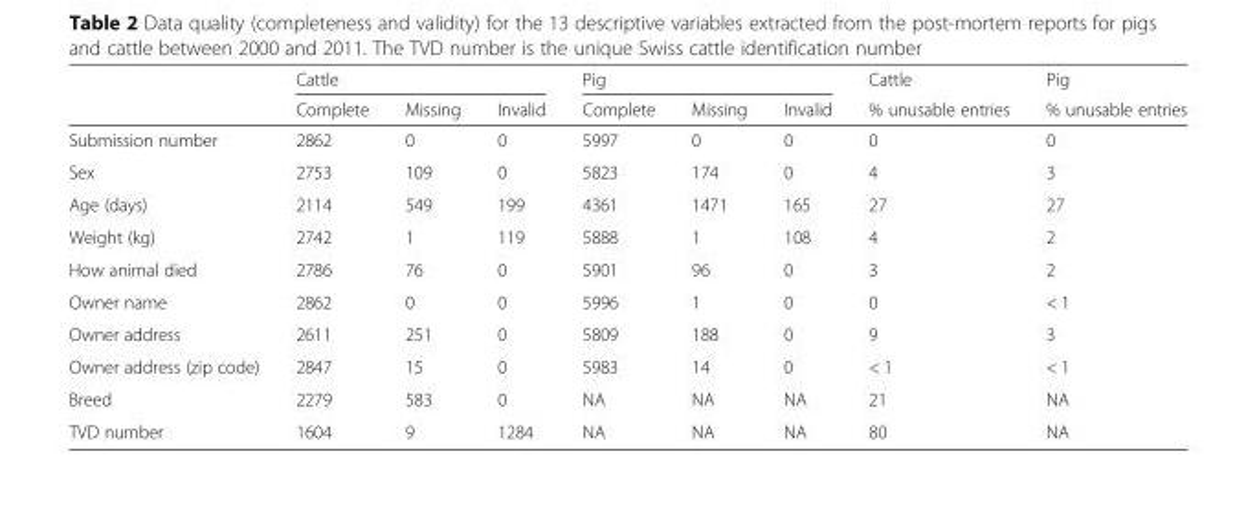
<table><thead><tr><td rowspan="2"></td><td colspan="3">Cattle</td><td colspan="3">Pig</td><td rowspan="2">Cattle % unusable entries</td><td rowspan="2">Pig % unusable entries</td></tr><tr><td>Complete</td><td>Missing</td><td>Invalid</td><td>Complete</td><td>Missing</td><td>Invalid</td></tr></thead><tbody><tr><td>Submission number</td><td>2862</td><td>0</td><td>0</td><td>5997</td><td>0</td><td>0</td><td>0</td><td>0</td></tr><tr><td>Sex</td><td>2753</td><td>109</td><td>0</td><td>5823</td><td>174</td><td>0</td><td>4</td><td>3</td></tr><tr><td>Age (days)</td><td>2114</td><td>549</td><td>199</td><td>4361</td><td>1471</td><td>165</td><td>27</td><td>27</td></tr><tr><td>Weight (kg)</td><td>2742</td><td>1</td><td>119</td><td>5888</td><td>1</td><td>108</td><td>4</td><td>2</td></tr><tr><td>How animal died</td><td>2786</td><td>76</td><td>0</td><td>5901</td><td>96</td><td>0</td><td>3</td><td>2</td></tr><tr><td>Owner name</td><td>2862</td><td>0</td><td>0</td><td>5996</td><td>1</td><td>0</td><td>0</td><td>&lt; 1</td></tr><tr><td>Owner address</td><td>2611</td><td>251</td><td>0</td><td>5809</td><td>188</td><td>0</td><td>9</td><td>3</td></tr><tr><td>Owner address (zip code)</td><td>2847</td><td>15</td><td>0</td><td>5983</td><td>14</td><td>0</td><td>&lt; 1</td><td>&lt; 1</td></tr><tr><td>Breed</td><td>2279</td><td>583</td><td>0</td><td>NA</td><td>NA</td><td>NA</td><td>21</td><td>NA</td></tr><tr><td>TVD number</td><td>1604</td><td>9</td><td>1284</td><td>NA</td><td>NA</td><td>NA</td><td>80</td><td>NA</td></tr></tbody></table>